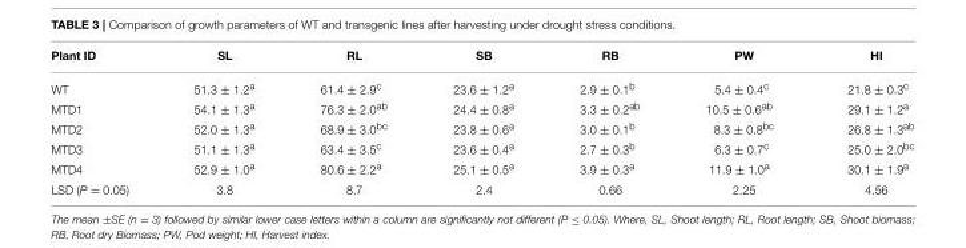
<table><thead><tr><td>Plant ID</td><td>SL</td><td>RL</td><td>SB</td><td>RB</td><td>PW</td><td>HI</td></tr></thead><tbody><tr><td>WT</td><td>51.3 ± 1.2<sup>a</sup></td><td>61.4 ± 2.9<sup>c</sup></td><td>23.6 ± 1.2<sup>a</sup></td><td>2.9 ± 0.1<sup>b</sup></td><td>5.4 ± 0.4<sup>c</sup></td><td>21.8 ± 0.3<sup>c</sup></td></tr><tr><td>MTD1</td><td>54.1 ± 1.3<sup>a</sup></td><td>76.3 ± 2.0<sup>ab</sup></td><td>24.4 ± 0.8<sup>a</sup></td><td>3.3 ± 0.2<sup>ab</sup></td><td>10.5 ± 0.6<sup>ab</sup></td><td>29.1 ± 1.2<sup>a</sup></td></tr><tr><td>MTD2</td><td>52.0 ± 1.3<sup>a</sup></td><td>68.9 ± 3.0<sup>bc</sup></td><td>23.8 ± 0.6<sup>a</sup></td><td>3.0 ± 0.1<sup>b</sup></td><td>8.3 ± 0.8<sup>bc</sup></td><td>26.8 ± 1.3<sup>ab</sup></td></tr><tr><td>MTD3</td><td>51.1 ± 1.3<sup>a</sup></td><td>63.4 ± 3.5<sup>c</sup></td><td>23.6 ± 0.4<sup>a</sup></td><td>2.7 ± 0.3<sup>b</sup></td><td>6.3 ± 0.7<sup>c</sup></td><td>25.0 ± 2.0<sup>bc</sup></td></tr><tr><td>MTD4</td><td>52.9 ± 1.0<sup>a</sup></td><td>80.6 ± 2.2<sup>a</sup></td><td>25.1 ± 0.5<sup>a</sup></td><td>3.9 ± 0.3<sup>a</sup></td><td>11.9 ± 1.0<sup>a</sup></td><td>30.1 ± 1.9<sup>a</sup></td></tr><tr><td>LSD (P = 0.05)</td><td>3.8</td><td>8.7</td><td>2.4</td><td>0.66</td><td>2.25</td><td>4.56</td></tr></tbody></table>